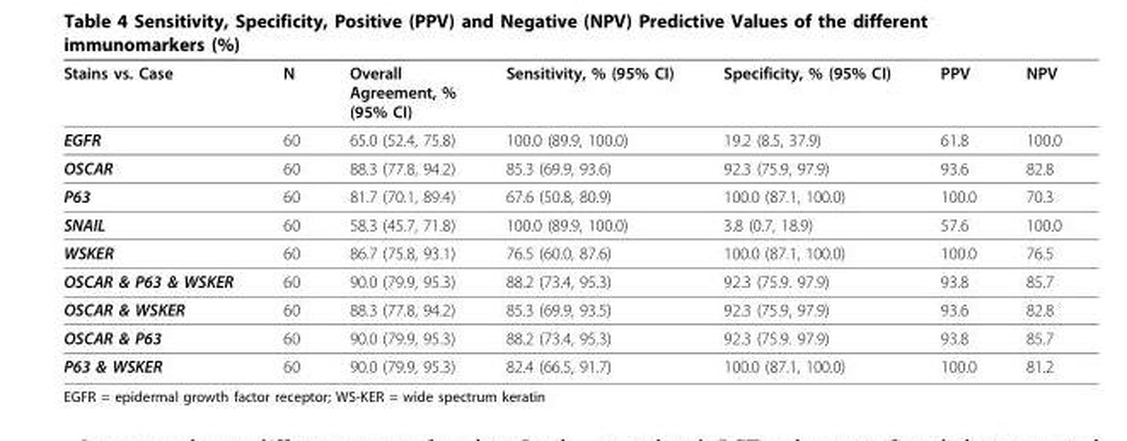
<table><thead><tr><td>Stains vs. Case</td><td>N</td><td>Overall Agreement, % (95% CI)</td><td>Sensitivity, % (95% CI)</td><td>Specificity, % (95% CI)</td><td>PPV</td><td>NPV</td></tr></thead><tbody><tr><td>EGFR</td><td>60</td><td>65.0 (52.4, 75.8)</td><td>100.0 (89.9, 100.0)</td><td>19.2 (8.5, 37.9)</td><td>61.8</td><td>100.0</td></tr><tr><td>OSCAR</td><td>60</td><td>88.3 (77.8, 94.2)</td><td>85.3 (69.9, 93.6)</td><td>92.3 (75.9, 97.9)</td><td>93.6</td><td>82.8</td></tr><tr><td>P63</td><td>60</td><td>81.7 (70.1, 89.4)</td><td>67.6 (50.8, 80.9)</td><td>100.0 (87.1, 100.0)</td><td>100.0</td><td>70.3</td></tr><tr><td>SNAIL</td><td>60</td><td>58.3 (45.7, 71.8)</td><td>100.0 (89.9, 100.0)</td><td>3.8 (0.7, 18.9)</td><td>57.6</td><td>100.0</td></tr><tr><td>WSKER</td><td>60</td><td>86.7 (75.8, 93.1)</td><td>76.5 (60.0, 87.6)</td><td>100.0 (87.1, 100.0)</td><td>100.0</td><td>76.5</td></tr><tr><td>OSCAR &amp; P63 &amp; WSKER</td><td>60</td><td>90.0 (79.9, 95.3)</td><td>88.2 (73.4, 95.3)</td><td>92.3 (75.9. 97.9)</td><td>93.8</td><td>85.7</td></tr><tr><td>OSCAR &amp; WSKER</td><td>60</td><td>88.3 (77.8, 94.2)</td><td>85.3 (69.9, 93.5)</td><td>92.3 (75.9, 97.9)</td><td>93.6</td><td>82.8</td></tr><tr><td>OSCAR &amp; P63</td><td>60</td><td>90.0 (79.9, 95.3)</td><td>88.2 (73.4, 95.3)</td><td>92.3 (75.9. 97.9)</td><td>93.8</td><td>85.7</td></tr><tr><td>P63 &amp; WSKER</td><td>60</td><td>90.0 (79.9, 95.3)</td><td>82.4 (66.5, 91.7)</td><td>100.0 (87.1, 100.0)</td><td>100.0</td><td>81.2</td></tr></tbody></table>